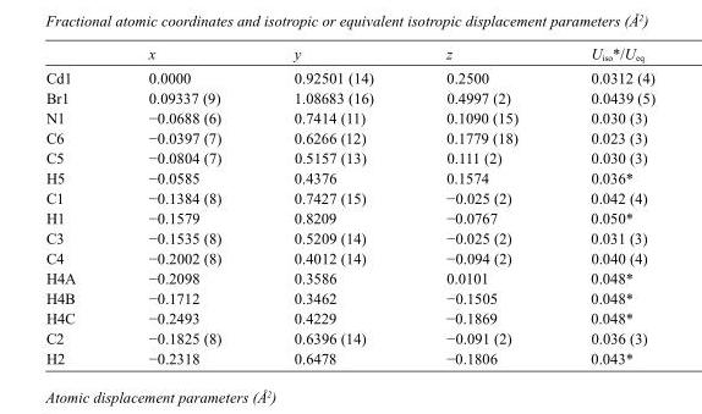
<table><thead><tr><td></td><td>x</td><td>y</td><td>z</td><td>U<sub>iso</sub>*/U<sub>eq</sub></td></tr></thead><tbody><tr><td>Cd1</td><td>0.0000</td><td>0.92501 (14)</td><td>0.2500</td><td>0.0312 (4)</td></tr><tr><td>Br1</td><td>0.09337 (9)</td><td>1.08683 (16)</td><td>0.4997 (2)</td><td>0.0439 (5)</td></tr><tr><td>N1</td><td>−0.0688 (6)</td><td>0.7414 (11)</td><td>0.1090 (15)</td><td>0.030 (3)</td></tr><tr><td>C6</td><td>−0.0397 (7)</td><td>0.6266 (12)</td><td>0.1779 (18)</td><td>0.023 (3)</td></tr><tr><td>C5</td><td>−0.0804 (7)</td><td>0.5157 (13)</td><td>0.111 (2)</td><td>0.030 (3)</td></tr><tr><td>H5</td><td>−0.0585</td><td>0.4376</td><td>0.1574</td><td>0.036*</td></tr><tr><td>C1</td><td>−0.1384 (8)</td><td>0.7427 (15)</td><td>−0.025 (2)</td><td>0.042 (4)</td></tr><tr><td>H1</td><td>−0.1579</td><td>0.8209</td><td>−0.0767</td><td>0.050*</td></tr><tr><td>C3</td><td>−0.1535 (8)</td><td>0.5209 (14)</td><td>−0.025 (2)</td><td>0.031 (3)</td></tr><tr><td>C4</td><td>−0.2002 (8)</td><td>0.4012 (14)</td><td>−0.094 (2)</td><td>0.040 (4)</td></tr><tr><td>H4A</td><td>−0.2098</td><td>0.3586</td><td>0.0101</td><td>0.048*</td></tr><tr><td>H4B</td><td>−0.1712</td><td>0.3462</td><td>−0.1505</td><td>0.048*</td></tr><tr><td>H4C</td><td>−0.2493</td><td>0.4229</td><td>−0.1869</td><td>0.048*</td></tr><tr><td>C2</td><td>−0.1825 (8)</td><td>0.6396 (14)</td><td>−0.091 (2)</td><td>0.036 (3)</td></tr><tr><td>H2</td><td>−0.2318</td><td>0.6478</td><td>−0.1806</td><td>0.043*</td></tr></tbody></table>